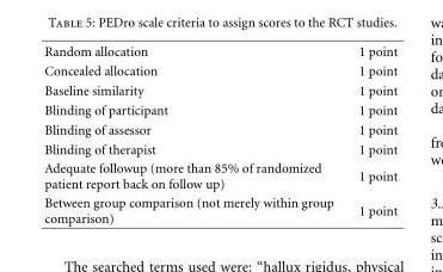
<table><tbody><tr><td>Random allocation</td><td>1 point</td></tr><tr><td>Concealed allocation</td><td>1 point</td></tr><tr><td>Baseline similarity</td><td>1 point</td></tr><tr><td>Blinding of participant</td><td>1 point</td></tr><tr><td>Blinding of assessor</td><td>1 point</td></tr><tr><td>Blinding of therapist</td><td>1 point</td></tr><tr><td>Adequate followup (more than 85% of randomized patient report back on follow up)</td><td>1 point</td></tr><tr><td>Between group comparison (not merely within group comparison)</td><td>1 point</td></tr></tbody></table>